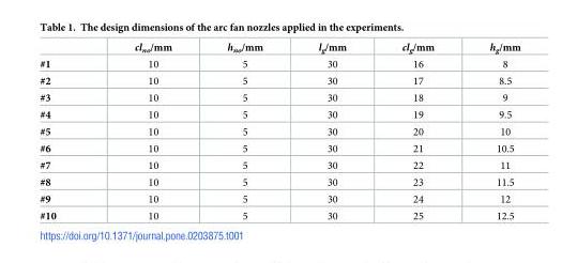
<table><thead><tr><td></td><td>cl<sub>no</sub>/mm</td><td>h<sub>no</sub>/mm</td><td>l<sub>g</sub>/mm</td><td>cl<sub>g</sub>/mm</td><td>h<sub>g</sub>/mm</td></tr></thead><tbody><tr><td>#1</td><td>10</td><td>5</td><td>30</td><td>16</td><td>8</td></tr><tr><td>#2</td><td>10</td><td>5</td><td>30</td><td>17</td><td>8.5</td></tr><tr><td>#3</td><td>10</td><td>5</td><td>30</td><td>18</td><td>9</td></tr><tr><td>#4</td><td>10</td><td>5</td><td>30</td><td>19</td><td>9.5</td></tr><tr><td>#5</td><td>10</td><td>5</td><td>30</td><td>20</td><td>10</td></tr><tr><td>#6</td><td>10</td><td>5</td><td>30</td><td>21</td><td>10.5</td></tr><tr><td>#7</td><td>10</td><td>5</td><td>30</td><td>22</td><td>11</td></tr><tr><td>#8</td><td>10</td><td>5</td><td>30</td><td>23</td><td>11.5</td></tr><tr><td>#9</td><td>10</td><td>5</td><td>30</td><td>24</td><td>12</td></tr><tr><td>#10</td><td>10</td><td>5</td><td>30</td><td>25</td><td>12.5</td></tr></tbody></table>